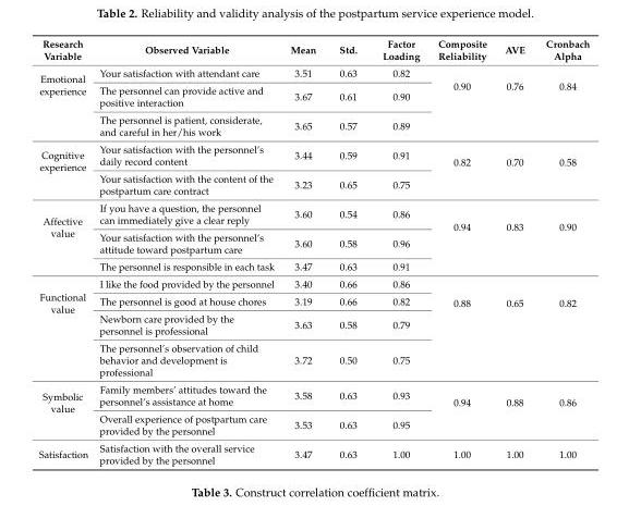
<table><thead><tr><td>Research Variable</td><td>Observed Variable</td><td>Mean</td><td>Std.</td><td>Factor Loading</td><td>Composite Reliability</td><td>AVE</td><td>Cronbach Alpha</td></tr></thead><tbody><tr><td rowspan="3">Emotional experience</td><td>Your satisfaction with attendant care</td><td>3.51</td><td>0.63</td><td>0.82</td><td rowspan="3">0.90</td><td rowspan="3">0.76</td><td rowspan="3">0.84</td></tr><tr><td>The personnel can provide active and positive interaction</td><td>3.67</td><td>0.61</td><td>0.90</td></tr><tr><td>The personnel is patient, considerate, and careful in her/his work</td><td>3.65</td><td>0.57</td><td>0.89</td></tr><tr><td rowspan="2">Cognitive experience</td><td>Your satisfaction with the personnel’s daily record content</td><td>3.44</td><td>0.59</td><td>0.91</td><td rowspan="2">0.82</td><td rowspan="2">0.70</td><td rowspan="2">0.58</td></tr><tr><td>Your satisfaction with the content of the postpartum care contract</td><td>3.23</td><td>0.65</td><td>0.75</td></tr><tr><td rowspan="3">Affective value</td><td>If you have a question, the personnel can immediately give a clear reply</td><td>3.60</td><td>0.54</td><td>0.86</td><td rowspan="3">0.94</td><td rowspan="3">0.83</td><td rowspan="3">0.90</td></tr><tr><td>Your satisfaction with the personnel’s attitude toward postpartum care</td><td>3.60</td><td>0.58</td><td>0.96</td></tr><tr><td>The personnel is responsible in each task</td><td>3.47</td><td>0.63</td><td>0.91</td></tr><tr><td rowspan="4">Functional value</td><td>I like the food provided by the personnel</td><td>3.40</td><td>0.66</td><td>0.86</td><td rowspan="4">0.88</td><td rowspan="4">0.65</td><td rowspan="4">0.82</td></tr><tr><td>The personnel is good at house chores</td><td>3.19</td><td>0.66</td><td>0.82</td></tr><tr><td>Newborn care provided by the personnel is professional</td><td>3.63</td><td>0.58</td><td>0.79</td></tr><tr><td>The personnel’s observation of child behavior and development is professional</td><td>3.72</td><td>0.50</td><td>0.75</td></tr><tr><td rowspan="2">Symbolic value</td><td>Family members’ attitudes toward the personnel’s assistance at home</td><td>3.58</td><td>0.63</td><td>0.93</td><td rowspan="2">0.94</td><td rowspan="2">0.88</td><td rowspan="2">0.86</td></tr><tr><td>Overall experience of postpartum care provided by the personnel</td><td>3.53</td><td>0.63</td><td>0.95</td></tr><tr><td>Satisfaction</td><td>Satisfaction with the overall service provided by the personnel</td><td>3.47</td><td>0.63</td><td>1.00</td><td>1.00</td><td>1.00</td><td>1.00</td></tr></tbody></table>